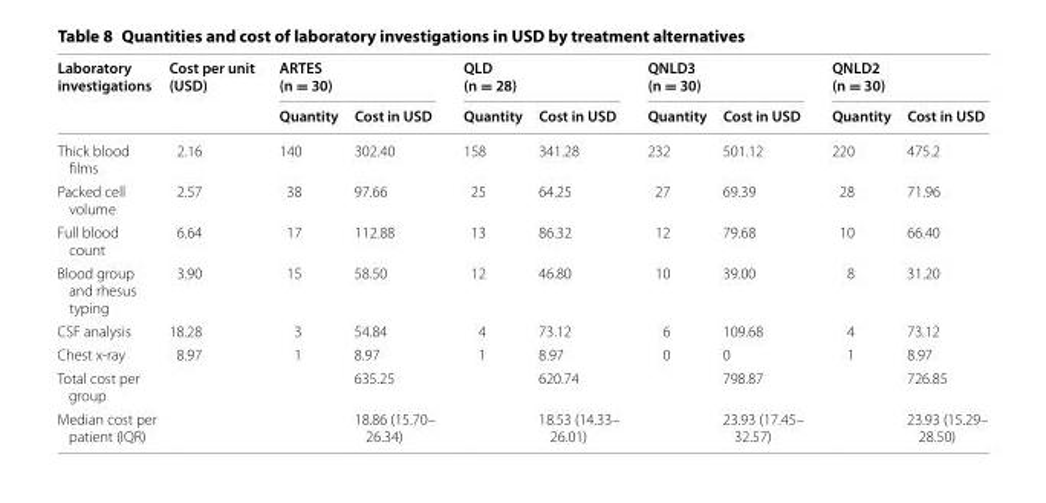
<table><thead><tr><td rowspan="2">Laboratory investigations</td><td rowspan="2">Cost per unit (USD)</td><td colspan="2">ARTES (n = 30)</td><td colspan="2">QLD (n = 28)</td><td colspan="2">QNLD3 (n = 30)</td><td colspan="2">QNLD2 (n = 30)</td></tr><tr><td>Quantity</td><td>Cost in USD</td><td>Quantity</td><td>Cost in USD</td><td>Quantity</td><td>Cost in USD</td><td>Quantity</td><td>Cost in USD</td></tr></thead><tbody><tr><td>Thick blood films</td><td>2.16</td><td>140</td><td>302.40</td><td>158</td><td>341.28</td><td>232</td><td>501.12</td><td>220</td><td>475.2</td></tr><tr><td>Packed cell volume</td><td>2.57</td><td>38</td><td>97.66</td><td>25</td><td>64.25</td><td>27</td><td>69.39</td><td>28</td><td>71.96</td></tr><tr><td>Full blood count</td><td>6.64</td><td>17</td><td>112.88</td><td>13</td><td>86.32</td><td>12</td><td>79.68</td><td>10</td><td>66.40</td></tr><tr><td>Blood group and rhesus typing</td><td>3.90</td><td>15</td><td>58.50</td><td>12</td><td>46.80</td><td>10</td><td>39.00</td><td>8</td><td>31.20</td></tr><tr><td>CSF analysis</td><td>18.28</td><td>3</td><td>54.84</td><td>4</td><td>73.12</td><td>6</td><td>109.68</td><td>4</td><td>73.12</td></tr><tr><td>Chest x-ray</td><td>8.97</td><td>1</td><td>8.97</td><td>1</td><td>8.97</td><td>0</td><td>0</td><td>1</td><td>8.97</td></tr><tr><td>Total cost per group</td><td></td><td></td><td>635.25</td><td></td><td>620.74</td><td></td><td>798.87</td><td></td><td>726.85</td></tr><tr><td>Median cost per patient (IQR)</td><td></td><td></td><td>18.86 (15.70– 26.34)</td><td></td><td>18.53 (14.33– 26.01)</td><td></td><td>23.93 (17.45– 32.57)</td><td></td><td>23.93 (15.29– 28.50)</td></tr></tbody></table>